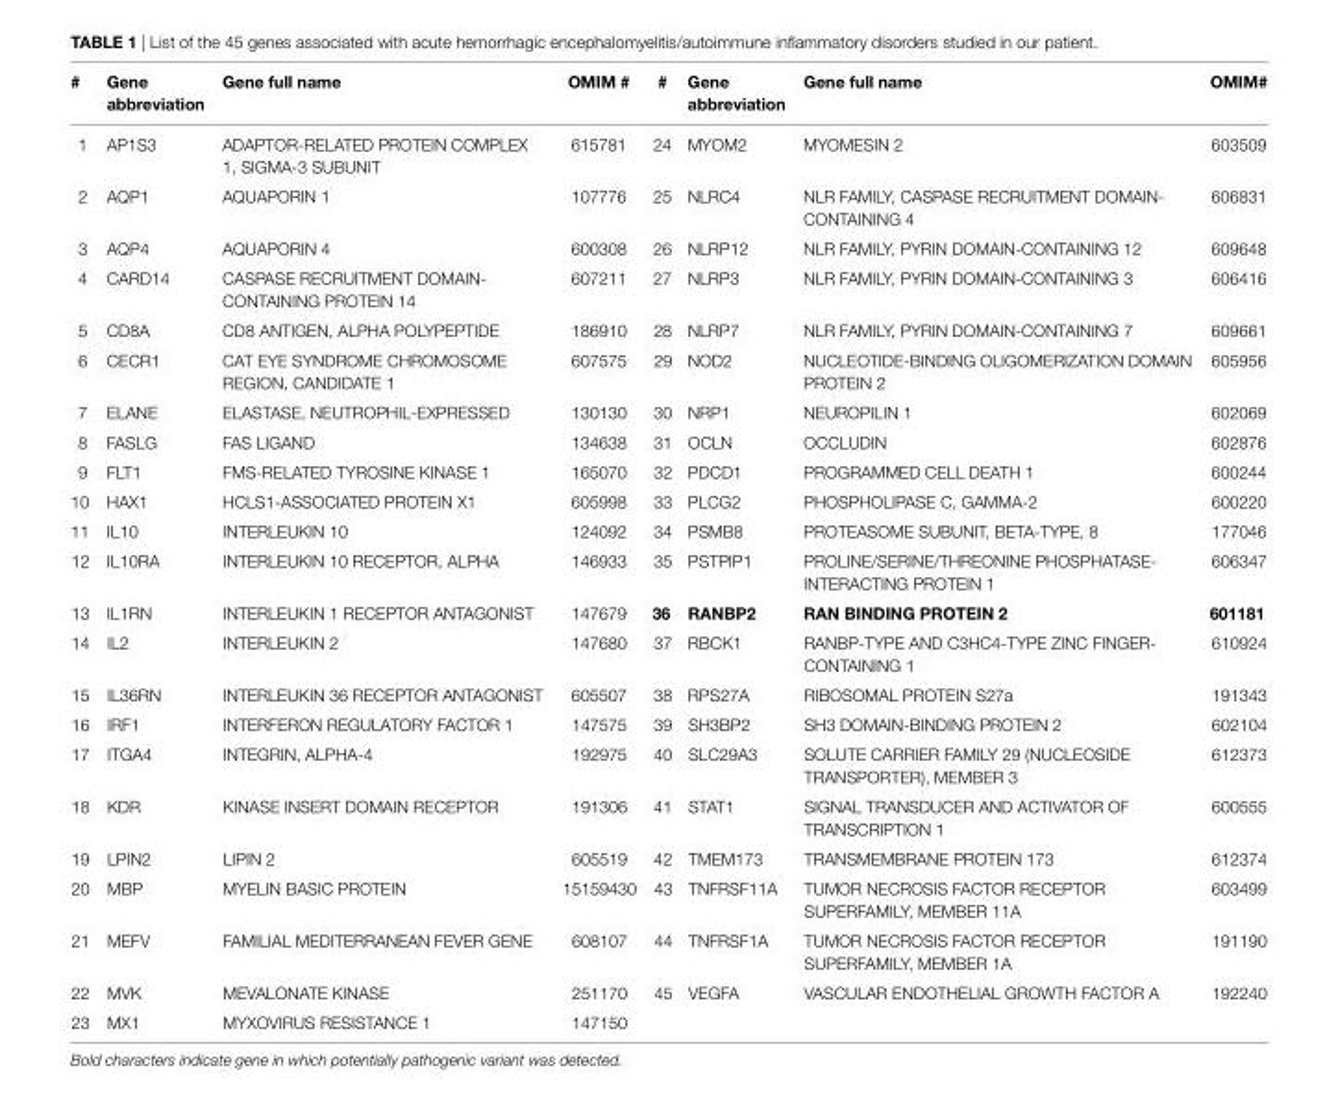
<table><thead><tr><td>#</td><td>gene abbreviation</td><td>gene full name</td><td>oMIM #</td><td>#</td><td>gene abbreviation</td><td>gene full name</td><td>oMIM#</td></tr></thead><tbody><tr><td>1</td><td>AP1S3</td><td>ADAPTOR-RELATED PROTEIN COMPLEX 1, SIGMA-3 SUBUNIT</td><td>615781</td><td>24</td><td>MYOM2</td><td>MYOMESIN 2</td><td>603509</td></tr><tr><td>2</td><td>AQP1</td><td>AQUAPORIN 1</td><td>107776</td><td>25</td><td>NLRC4</td><td>NLR FAMILY, CASPASE RECRUITMENT DOMAIN- CONTAINING 4</td><td>606831</td></tr><tr><td>3</td><td>AQP4</td><td>AQUAPORIN 4</td><td>600308</td><td>26</td><td>NLRP12</td><td>NLR FAMILY, PYRIN DOMAIN-CONTAINING 12</td><td>609648</td></tr><tr><td>4</td><td>CARD14</td><td>CASPASE RECRUITMENT DOMAIN- CONTAINING PROTEIN 14</td><td>607211</td><td>27</td><td>NLRP3</td><td>NLR FAMILY, PYRIN DOMAIN-CONTAINING 3</td><td>606416</td></tr><tr><td>5</td><td>CD8A</td><td>CD8 ANTIGEN, ALPHA POLYPEPTIDE</td><td>186910</td><td>28</td><td>NLRP7</td><td>NLR FAMILY, PYRIN DOMAIN-CONTAINING 7</td><td>609661</td></tr><tr><td>6</td><td>CECR1</td><td>CAT EYE SYNDROME CHROMOSOME REGION, CANDIDATE 1</td><td>607575</td><td>29</td><td>NOD2</td><td>NUCLEOTIDE-BINDING OLIGOMERIZATION DOMAIN PROTEIN 2</td><td>605956</td></tr><tr><td>7</td><td>ELANE</td><td>ELASTASE, NEUTROPHIL-EXPRESSED</td><td>130130</td><td>30</td><td>NRP1</td><td>NEUROPILIN 1</td><td>602069</td></tr><tr><td>8</td><td>FASLG</td><td>FAS LIGAND</td><td>134638</td><td>31</td><td>OCLN</td><td>OCCLUDIN</td><td>602876</td></tr><tr><td>9</td><td>FLT1</td><td>FMS-RELATED TYROSINE KINASE 1</td><td>165070</td><td>32</td><td>PDCD1</td><td>PROGRAMMED CELL DEATH 1</td><td>600244</td></tr><tr><td>10</td><td>HAX1</td><td>HCLS1-ASSOCIATED PROTEIN X1</td><td>605998</td><td>33</td><td>PLCG2</td><td>PHOSPHOLIPASE C, GAMMA-2</td><td>600220</td></tr><tr><td>11</td><td>IL10</td><td>INTERLEUKIN 10</td><td>124092</td><td>34</td><td>PSMB8</td><td>PROTEASOME SUBUNIT, BETA-TYPE, 8</td><td>177046</td></tr><tr><td>12</td><td>IL10RA</td><td>INTERLEUKIN 10 RECEPTOR, ALPHA</td><td>146933</td><td>35</td><td>PSTPIP1</td><td>PROLINE/SERINE/THREONINE PHOSPHATASE- INTERACTING PROTEIN 1</td><td>606347</td></tr><tr><td>13</td><td>IL1RN</td><td>INTERLEUKIN 1 RECEPTOR ANTAGONIST</td><td>147679</td><td>36</td><td>RaNBp2</td><td>RaN BINDINg pRoteIN 2</td><td>601181</td></tr><tr><td>14</td><td>IL2</td><td>INTERLEUKIN 2</td><td>147680</td><td>37</td><td>RBCK1</td><td>RANBP-TYPE AND C3HC4-TYPE ZINC FINGER- CONTAINING 1</td><td>610924</td></tr><tr><td>15</td><td>IL36RN</td><td>INTERLEUKIN 36 RECEPTOR ANTAGONIST</td><td>605507</td><td>38</td><td>RPS27A</td><td>RIBOSOMAL PROTEIN S27a</td><td>191343</td></tr><tr><td>16</td><td>IRF1</td><td>INTERFERON REGULATORY FACTOR 1</td><td>147575</td><td>39</td><td>SH3BP2</td><td>SH3 DOMAIN-BINDING PROTEIN 2</td><td>602104</td></tr><tr><td>17</td><td>ITGA4</td><td>INTEGRIN, ALPHA-4</td><td>192975</td><td>40</td><td>SLC29A3</td><td>SOLUTE CARRIER FAMILY 29 (NUCLEOSIDE TRANSPORTER), MEMBER 3</td><td>612373</td></tr><tr><td>18</td><td>KDR</td><td>KINASE INSERT DOMAIN RECEPTOR</td><td>191306</td><td>41</td><td>STAT1</td><td>SIGNAL TRANSDUCER AND ACTIVATOR OF TRANSCRIPTION 1</td><td>600555</td></tr><tr><td>19</td><td>LPIN2</td><td>LIPIN 2</td><td>605519</td><td>42</td><td>TMEM173</td><td>TRANSMEMBRANE PROTEIN 173</td><td>612374</td></tr><tr><td>20</td><td>MBP</td><td>MYELIN BASIC PROTEIN</td><td>15159430</td><td>43</td><td>TNFRSF11A</td><td>TUMOR NECROSIS FACTOR RECEPTOR SUPERFAMILY, MEMBER 11A</td><td>603499</td></tr><tr><td>21</td><td>MEFV</td><td>FAMILIAL MEDITERRANEAN FEVER GENE</td><td>608107</td><td>44</td><td>TNFRSF1A</td><td>TUMOR NECROSIS FACTOR RECEPTOR SUPERFAMILY, MEMBER 1A</td><td>191190</td></tr><tr><td>22</td><td>MVK</td><td>MEVALONATE KINASE</td><td>251170</td><td>45</td><td>VEGFA</td><td>VASCULAR ENDOTHELIAL GROWTH FACTOR A</td><td>192240</td></tr><tr><td>23</td><td>MX1</td><td>MYXOVIRUS RESISTANCE 1</td><td>147150</td><td></td><td></td><td></td><td></td></tr></tbody></table>